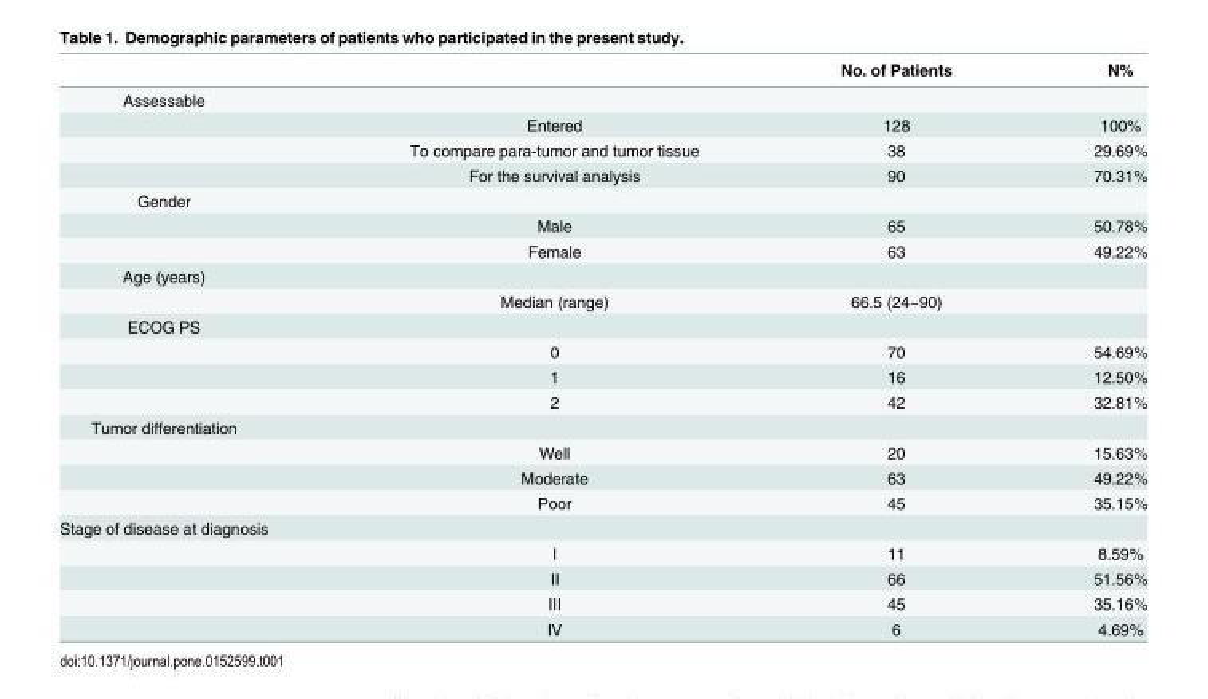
<table><thead><tr><td></td><td></td><td>No. of Patients</td><td>N%</td></tr></thead><tbody><tr><td colspan="4">Assessable</td></tr><tr><td></td><td>Entered</td><td>128</td><td>100%</td></tr><tr><td></td><td>To compare para-tumor and tumor tissue</td><td>38</td><td>29.69%</td></tr><tr><td></td><td>For the survival analysis</td><td>90</td><td>70.31%</td></tr><tr><td colspan="4">Gender</td></tr><tr><td></td><td>Male</td><td>65</td><td>50.78%</td></tr><tr><td></td><td>Female</td><td>63</td><td>49.22%</td></tr><tr><td colspan="4">Age (years)</td></tr><tr><td></td><td>Median (range)</td><td>66.5 (24~90)</td><td></td></tr><tr><td colspan="4">ECOG PS</td></tr><tr><td></td><td>0</td><td>70</td><td>54.69%</td></tr><tr><td></td><td>1</td><td>16</td><td>12.50%</td></tr><tr><td></td><td>2</td><td>42</td><td>32.81%</td></tr><tr><td colspan="4">Tumor differentiation</td></tr><tr><td></td><td>Well</td><td>20</td><td>15.63%</td></tr><tr><td></td><td>Moderate</td><td>63</td><td>49.22%</td></tr><tr><td></td><td>Poor</td><td>45</td><td>35.15%</td></tr><tr><td colspan="4">Stage of disease at diagnosis</td></tr><tr><td></td><td>I</td><td>11</td><td>8.59%</td></tr><tr><td></td><td>II</td><td>66</td><td>51.56%</td></tr><tr><td></td><td>III</td><td>45</td><td>35.16%</td></tr><tr><td></td><td>IV</td><td>6</td><td>4.69%</td></tr></tbody></table>